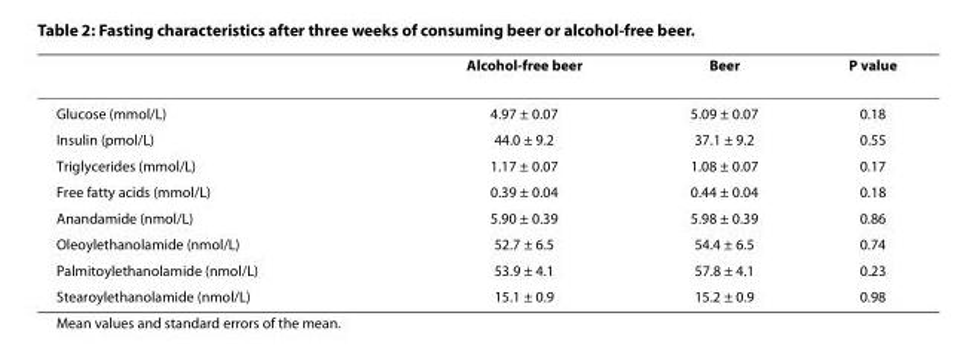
<table><thead><tr><td></td><td>Alcohol-free beer</td><td>Beer</td><td>P value</td></tr></thead><tbody><tr><td>Glucose (mmol/L)</td><td>4.97 ± 0.07</td><td>5.09 ± 0.07</td><td>0.18</td></tr><tr><td>Insulin (pmol/L)</td><td>44.0 ± 9.2</td><td>37.1 ± 9.2</td><td>0.55</td></tr><tr><td>Triglycerides (mmol/L)</td><td>1.17 ± 0.07</td><td>1.08 ± 0.07</td><td>0.17</td></tr><tr><td>Free fatty acids (mmol/L)</td><td>0.39 ± 0.04</td><td>0.44 ± 0.04</td><td>0.18</td></tr><tr><td>Anandamide (nmol/L)</td><td>5.90 ± 0.39</td><td>5.98 ± 0.39</td><td>0.86</td></tr><tr><td>Oleoylethanolamide (nmol/L)</td><td>52.7 ± 6.5</td><td>54.4 ± 6.5</td><td>0.74</td></tr><tr><td>Palmitoylethanolamide (nmol/L)</td><td>53.9 ± 4.1</td><td>57.8 ± 4.1</td><td>0.23</td></tr><tr><td>Stearoylethanolamide (nmol/L)</td><td>15.1 ± 0.9</td><td>15.2 ± 0.9</td><td>0.98</td></tr></tbody></table>